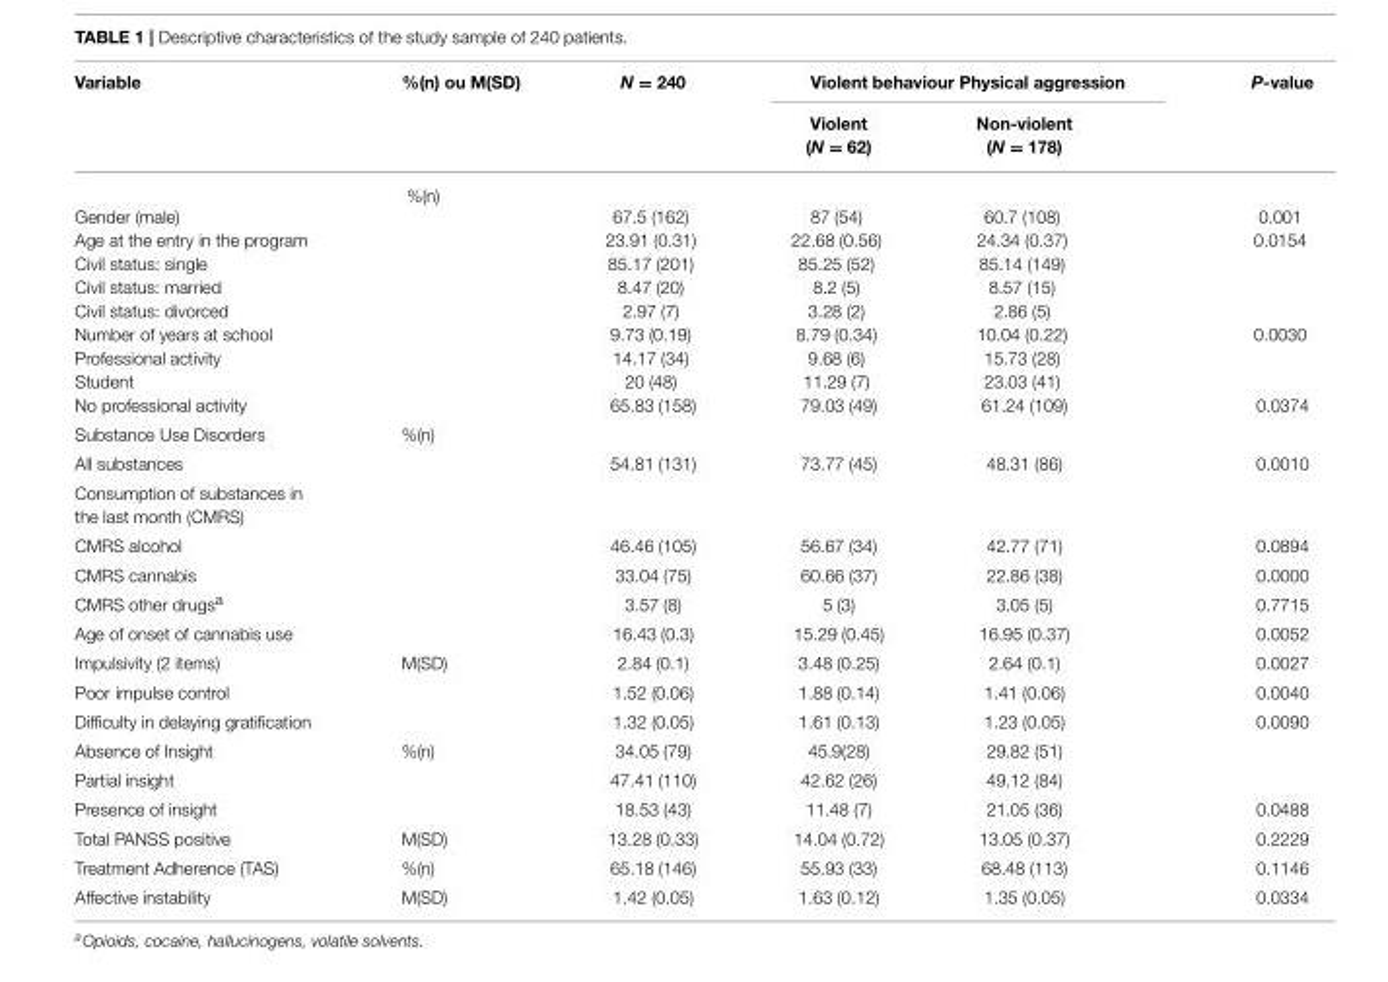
<table><thead><tr><td rowspan="2">Variable</td><td rowspan="2">%(n) ou M(SD)</td><td rowspan="2">N = 240</td><td colspan="2">Violent behaviour Physical aggression</td><td rowspan="2">P-value</td></tr><tr><td>Violent (N = 62)</td><td>Non-violent (N = 178)</td></tr></thead><tbody><tr><td>Gender (male) Age at the entry in the program Civil status: single Civil status: married Civil status: divorced Number of years at school Professional activity Student No professional activity</td><td>%(n)</td><td>67.5 (162) 23.91 (0.31) 85.17 (201) 8.47 (20) 2.97 (7) 9.73 (0.19) 14.17 (34) 20 (48) 65.83 (158)</td><td>87 (54) 22.68 (0.56) 85.25 (52) 8.2 (5) 3.28 (2) 8.79 (0.34) 9.68 (6) 11.29 (7) 79.03 (49)</td><td>60.7 (108) 24.34 (0.37) 85.14 (149) 8.57 (15) 2.86 (5) 10.04 (0.22) 15.73 (28) 23.03 (41) 61.24 (109)</td><td>0.001 0.0154 0.0030 0.0374</td></tr><tr><td>Substance Use Disorders</td><td>%(n)</td><td></td><td></td><td></td><td></td></tr><tr><td>All substances</td><td></td><td>54.81 (131)</td><td>73.77 (45)</td><td>48.31 (86)</td><td>0.0010</td></tr><tr><td colspan="6">Consumption of substances in the last month (CMRS)</td></tr><tr><td>CMRS alcohol</td><td></td><td>46.46 (105)</td><td>56.67 (34)</td><td>42.77 (71)</td><td>0.0894</td></tr><tr><td>CMRS cannabis</td><td></td><td>33.04 (75)</td><td>60.66 (37)</td><td>22.86 (38)</td><td>0.0000</td></tr><tr><td>CMRS other drugs<sup>a</sup></td><td></td><td>3.57 (8)</td><td>5 (3)</td><td>3.05 (5)</td><td>0.7715</td></tr><tr><td>Age of onset of cannabis use</td><td></td><td>16.43 (0.3)</td><td>15.29 (0.45)</td><td>16.95 (0.37)</td><td>0.0052</td></tr><tr><td>Impulsivity (2 items)</td><td>M(SD)</td><td>2.84 (0.1)</td><td>3.48 (0.25)</td><td>2.64 (0.1)</td><td>0.0027</td></tr><tr><td>Poor impulse control</td><td></td><td>1.52 (0.06)</td><td>1.88 (0.14)</td><td>1.41 (0.06)</td><td>0.0040</td></tr><tr><td>Difficulty in delaying gratification</td><td></td><td>1.32 (0.05)</td><td>1.61 (0.13)</td><td>1.23 (0.05)</td><td>0.0090</td></tr><tr><td>Absence of Insight</td><td>%(n)</td><td>34.05 (79)</td><td>45.9(28)</td><td>29.82 (51)</td><td></td></tr><tr><td>Partial insight</td><td></td><td>47.41 (110)</td><td>42.62 (26)</td><td>49.12 (84)</td><td></td></tr><tr><td>Presence of insight</td><td></td><td>18.53 (43)</td><td>11.48 (7)</td><td>21.05 (36)</td><td>0.0488</td></tr><tr><td>Total PANSS positive</td><td>M(SD)</td><td>13.28 (0.33)</td><td>14.04 (0.72)</td><td>13.05 (0.37)</td><td>0.2229</td></tr><tr><td>Treatment Adherence (TAS)</td><td>%(n)</td><td>65.18 (146)</td><td>55.93 (33)</td><td>68.48 (113)</td><td>0.1146</td></tr><tr><td>Affective instability</td><td>M(SD)</td><td>1.42 (0.05)</td><td>1.63 (0.12)</td><td>1.35 (0.05)</td><td>0.0334</td></tr></tbody></table>